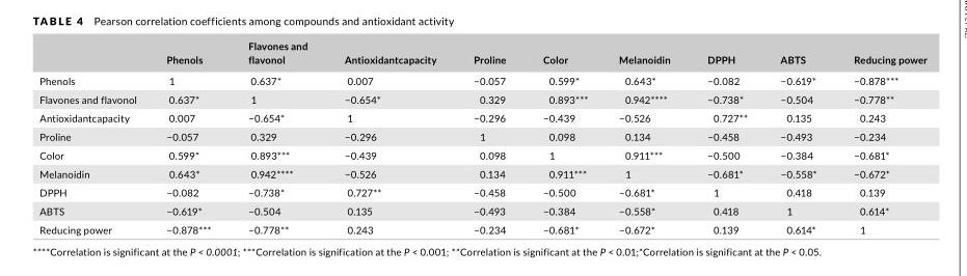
<table><thead><tr><td></td><td>Phenols</td><td>Flavones and flavonol</td><td>Antioxidantcapacity</td><td>Proline</td><td>Color</td><td>Melanoidin</td><td>DPPH</td><td>ABTS</td><td>Reducing power</td></tr></thead><tbody><tr><td>Phenols</td><td>1</td><td>0.637*</td><td>0.007</td><td>−0.057</td><td>0.599*</td><td>0.643*</td><td>−0.082</td><td>−0.619*</td><td>−0.878***</td></tr><tr><td>Flavones and flavonol</td><td>0.637*</td><td>1</td><td>−0.654*</td><td>0.329</td><td>0.893***</td><td>0.942****</td><td>−0.738*</td><td>−0.504</td><td>−0.778**</td></tr><tr><td>Antioxidantcapacity</td><td>0.007</td><td>−0.654*</td><td>1</td><td>−0.296</td><td>−0.439</td><td>−0.526</td><td>0.727**</td><td>0.135</td><td>0.243</td></tr><tr><td>Proline</td><td>−0.057</td><td>0.329</td><td>−0.296</td><td>1</td><td>0.098</td><td>0.134</td><td>−0.458</td><td>−0.493</td><td>−0.234</td></tr><tr><td>Color</td><td>0.599*</td><td>0.893***</td><td>−0.439</td><td>0.098</td><td>1</td><td>0.911***</td><td>−0.500</td><td>−0.384</td><td>−0.681*</td></tr><tr><td>Melanoidin</td><td>0.643*</td><td>0.942****</td><td>−0.526</td><td>0.134</td><td>0.911***</td><td>1</td><td>−0.681*</td><td>−0.558*</td><td>−0.672*</td></tr><tr><td>DPPH</td><td>−0.082</td><td>−0.738*</td><td>0.727**</td><td>−0.458</td><td>−0.500</td><td>−0.681*</td><td>1</td><td>0.418</td><td>0.139</td></tr><tr><td>ABTS</td><td>−0.619*</td><td>−0.504</td><td>0.135</td><td>−0.493</td><td>−0.384</td><td>−0.558*</td><td>0.418</td><td>1</td><td>0.614*</td></tr><tr><td>Reducing power</td><td>−0.878***</td><td>−0.778**</td><td>0.243</td><td>−0.234</td><td>−0.681*</td><td>−0.672*</td><td>0.139</td><td>0.614*</td><td>1</td></tr></tbody></table>